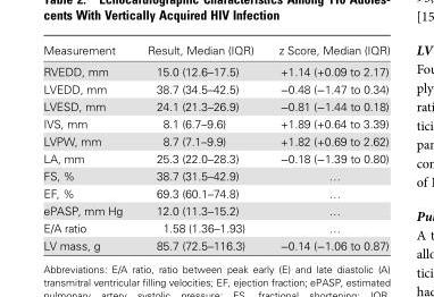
<table><thead><tr><td>Measurement</td><td>Result, Median (IQR)</td><td>z Score, Median (IQR)</td></tr></thead><tbody><tr><td>RVEDD, mm</td><td>15.0 (12.6–17.5)</td><td>+1.14 (+0.09 to 2.17)</td></tr><tr><td>LVEDD, mm</td><td>38.7 (34.5–42.5)</td><td>−0.48 (−1.47 to 0.34)</td></tr><tr><td>LVESD, mm</td><td>24.1 (21.3–26.9)</td><td>−0.81 (−1.44 to 0.18)</td></tr><tr><td>IVS, mm</td><td>8.1 (6.7–9.6)</td><td>+1.89 (+0.64 to 3.39)</td></tr><tr><td>LVPW, mm</td><td>8.7 (7.1–9.9)</td><td>+1.82 (+0.69 to 2.62)</td></tr><tr><td>LA, mm</td><td>25.3 (22.0–28.3)</td><td>−0.18 (−1.39 to 0.80)</td></tr><tr><td>FS, %</td><td>38.7 (31.5–42.9)</td><td>…</td></tr><tr><td>EF, %</td><td>69.3 (60.1–74.8)</td><td>…</td></tr><tr><td>ePASP, mm Hg</td><td>12.0 (11.3–15.2)</td><td>…</td></tr><tr><td>E/A ratio</td><td>1.58 (1.36–1.93)</td><td>…</td></tr><tr><td>LV mass, g</td><td>85.7 (72.5–116.3)</td><td>−0.14 (−1.06 to 0.87)</td></tr></tbody></table>